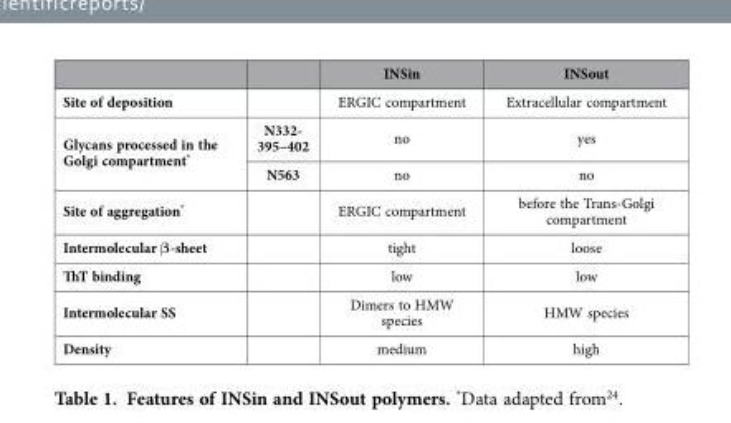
<table><thead><tr><td></td><td></td><td>INSin</td><td>INSout</td></tr></thead><tbody><tr><td>Site of deposition</td><td></td><td>ERGIC compartment</td><td>Extracellular compartment</td></tr><tr><td rowspan="2">Glycans processed in the Golgi compartment*</td><td>N332- 395–402</td><td>no</td><td>yes</td></tr><tr><td>N563</td><td>no</td><td>no</td></tr><tr><td>Site of aggregation*</td><td></td><td>ERGIC compartment</td><td>before the Trans-Golgi compartment</td></tr><tr><td>Intermolecular β -sheet</td><td></td><td>tight</td><td>loose</td></tr><tr><td>ThT binding</td><td></td><td>low</td><td>low</td></tr><tr><td>Intermolecular SS</td><td></td><td>Dimers to HMW species</td><td>HMW species</td></tr><tr><td>Density</td><td></td><td>medium</td><td>high</td></tr></tbody></table>